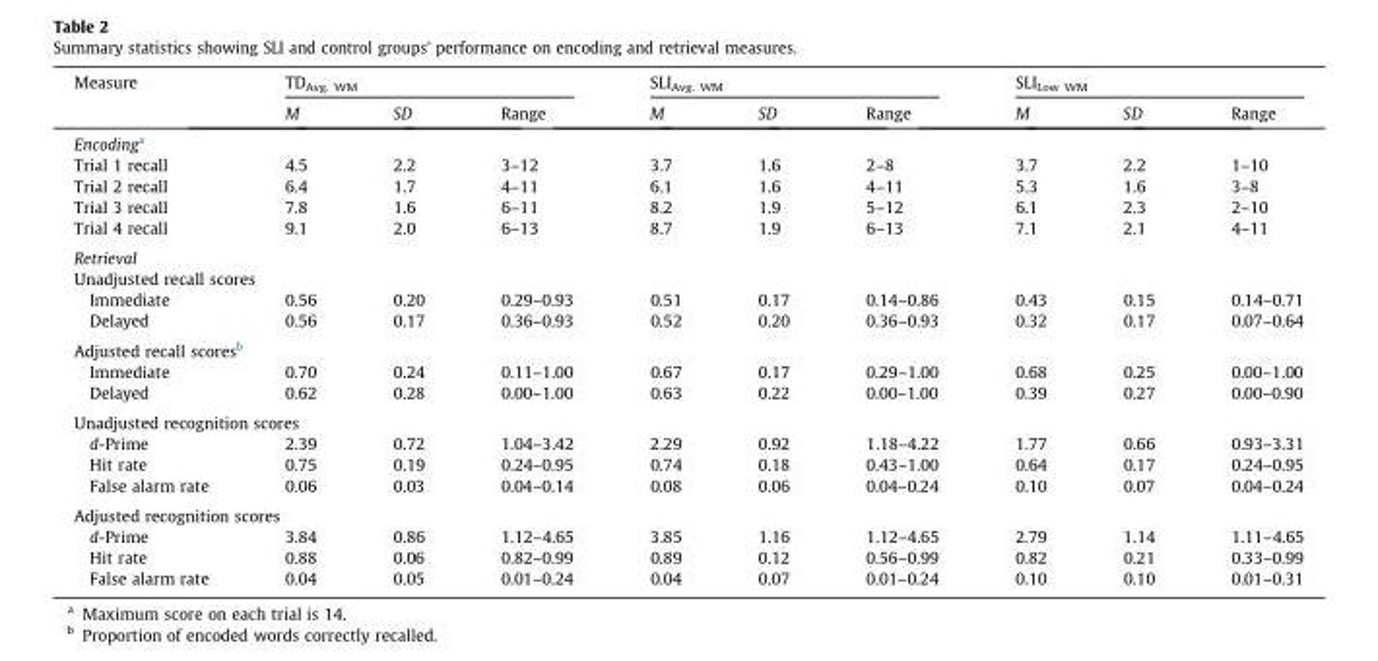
<table><thead><tr><td rowspan="2">Measure</td><td colspan="3">TD<sub>Avg. WM</sub></td><td colspan="3">SLI<sub>Avg. WM</sub></td><td colspan="3">SLI<sub>Low WM</sub></td></tr><tr><td>M</td><td>SD</td><td>Range</td><td>M</td><td>SD</td><td>Range</td><td>M</td><td>SD</td><td>Range</td></tr></thead><tbody><tr><td colspan="10">Encoding<sup>a</sup></td></tr><tr><td>Trial 1 recall</td><td>4.5</td><td>2.2</td><td>3–12</td><td>3.7</td><td>1.6</td><td>2–8</td><td>3.7</td><td>2.2</td><td>1–10</td></tr><tr><td>Trial 2 recall</td><td>6.4</td><td>1.7</td><td>4–11</td><td>6.1</td><td>1.6</td><td>4–11</td><td>5.3</td><td>1.6</td><td>3–8</td></tr><tr><td>Trial 3 recall</td><td>7.8</td><td>1.6</td><td>6–11</td><td>8.2</td><td>1.9</td><td>5–12</td><td>6.1</td><td>2.3</td><td>2–10</td></tr><tr><td>Trial 4 recall</td><td>9.1</td><td>2.0</td><td>6–13</td><td>8.7</td><td>1.9</td><td>6–13</td><td>7.1</td><td>2.1</td><td>4–11</td></tr><tr><td colspan="10">Retrieval</td></tr><tr><td colspan="10">Unadjusted recall scores</td></tr><tr><td>Immediate</td><td>0.56</td><td>0.20</td><td>0.29–0.93</td><td>0.51</td><td>0.17</td><td>0.14–0.86</td><td>0.43</td><td>0.15</td><td>0.14–0.71</td></tr><tr><td>Delayed</td><td>0.56</td><td>0.17</td><td>0.36–0.93</td><td>0.52</td><td>0.20</td><td>0.36–0.93</td><td>0.32</td><td>0.17</td><td>0.07–0.64</td></tr><tr><td colspan="10">Adjusted recall scores<sup>b</sup></td></tr><tr><td>Immediate</td><td>0.70</td><td>0.24</td><td>0.11–1.00</td><td>0.67</td><td>0.17</td><td>0.29–1.00</td><td>0.68</td><td>0.25</td><td>0.00–1.00</td></tr><tr><td>Delayed</td><td>0.62</td><td>0.28</td><td>0.00–1.00</td><td>0.63</td><td>0.22</td><td>0.00–1.00</td><td>0.39</td><td>0.27</td><td>0.00–0.90</td></tr><tr><td colspan="10">Unadjusted recognition scores</td></tr><tr><td>d-Prime</td><td>2.39</td><td>0.72</td><td>1.04–3.42</td><td>2.29</td><td>0.92</td><td>1.18–4.22</td><td>1.77</td><td>0.66</td><td>0.93–3.31</td></tr><tr><td>Hit rate</td><td>0.75</td><td>0.19</td><td>0.24–0.95</td><td>0.74</td><td>0.18</td><td>0.43–1.00</td><td>0.64</td><td>0.17</td><td>0.24–0.95</td></tr><tr><td>False alarm rate</td><td>0.06</td><td>0.03</td><td>0.04–0.14</td><td>0.08</td><td>0.06</td><td>0.04–0.24</td><td>0.10</td><td>0.07</td><td>0.04–0.24</td></tr><tr><td colspan="10">Adjusted recognition scores</td></tr><tr><td>d-Prime</td><td>3.84</td><td>0.86</td><td>1.12–4.65</td><td>3.85</td><td>1.16</td><td>1.12–4.65</td><td>2.79</td><td>1.14</td><td>1.11–4.65</td></tr><tr><td>Hit rate</td><td>0.88</td><td>0.06</td><td>0.82–0.99</td><td>0.89</td><td>0.12</td><td>0.56–0.99</td><td>0.82</td><td>0.21</td><td>0.33–0.99</td></tr><tr><td>False alarm rate</td><td>0.04</td><td>0.05</td><td>0.01–0.24</td><td>0.04</td><td>0.07</td><td>0.01–0.24</td><td>0.10</td><td>0.10</td><td>0.01–0.31</td></tr></tbody></table>